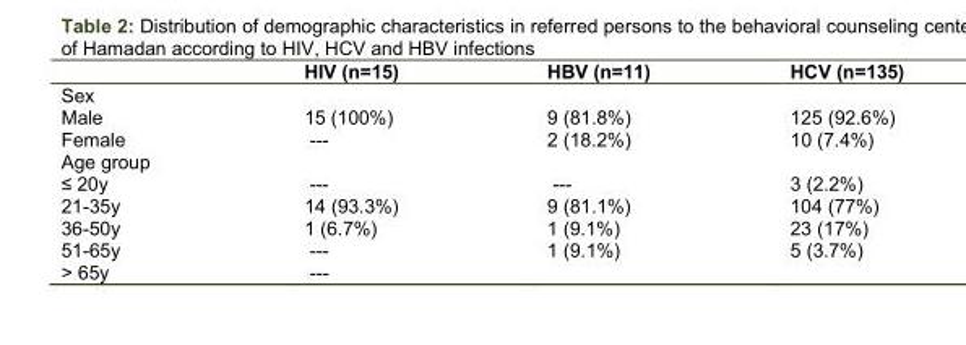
<table><thead><tr><td></td><td>HIV (n=15)</td><td>HBV (n=11)</td><td>HCV (n=135)</td></tr></thead><tbody><tr><td colspan="4">Sex</td></tr><tr><td>Male</td><td>15 (100%)</td><td>9 (81.8%)</td><td>125 (92.6%)</td></tr><tr><td>Female</td><td>---</td><td>2 (18.2%)</td><td>10 (7.4%)</td></tr><tr><td colspan="4">Age group</td></tr><tr><td>≤ 20y</td><td>---</td><td>---</td><td>3 (2.2%)</td></tr><tr><td>21-35y</td><td>14 (93.3%)</td><td>9 (81.1%)</td><td>104 (77%)</td></tr><tr><td>36-50y</td><td>1 (6.7%)</td><td>1 (9.1%)</td><td>23 (17%)</td></tr><tr><td>51-65y</td><td>---</td><td>1 (9.1%)</td><td>5 (3.7%)</td></tr><tr><td>&gt; 65y</td><td>---</td><td></td><td></td></tr></tbody></table>